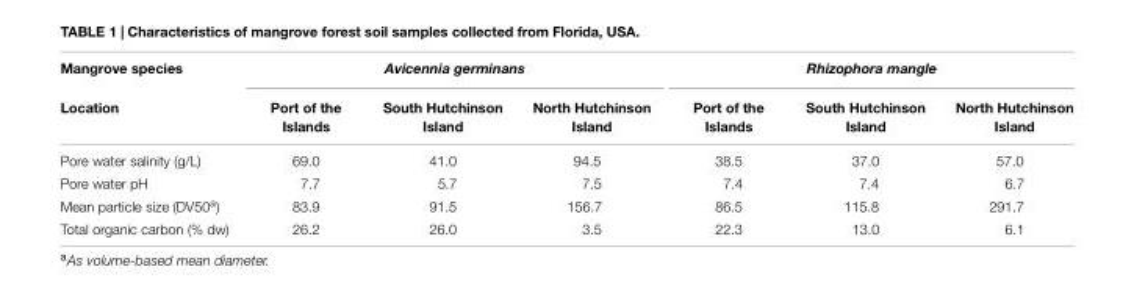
<table><thead><tr><td rowspan="2">Mangrove species Location</td><td colspan="3">Avicennia germinans</td><td colspan="3">Rhizophora mangle</td></tr><tr><td>Port of the Islands</td><td>South Hutchinson Island</td><td>North Hutchinson Island</td><td>Port of the Islands</td><td>South Hutchinson Island</td><td>North Hutchinson Island</td></tr></thead><tbody><tr><td>Pore water salinity (g/L)</td><td>69.0</td><td>41.0</td><td>94.5</td><td>38.5</td><td>37.0</td><td>57.0</td></tr><tr><td>Pore water pH</td><td>7.7</td><td>5.7</td><td>7.5</td><td>7.4</td><td>7.4</td><td>6.7</td></tr><tr><td>Mean particle size (DV50<sup>a</sup>)</td><td>83.9</td><td>91.5</td><td>156.7</td><td>86.5</td><td>115.8</td><td>291.7</td></tr><tr><td>Total organic carbon (% dw)</td><td>26.2</td><td>26.0</td><td>3.5</td><td>22.3</td><td>13.0</td><td>6.1</td></tr></tbody></table>